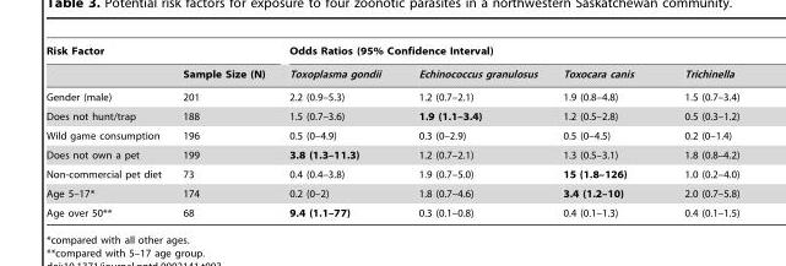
<table><thead><tr><td colspan="2">Risk Factor</td><td colspan="4">Odds Ratios (95% Confidence Interval)</td></tr><tr><td></td><td>Sample Size (N)</td><td>Toxoplasma gondii</td><td>Echinococcus granulosus</td><td>Toxocara canis</td><td>Trichinella</td></tr></thead><tbody><tr><td>Gender (male)</td><td>201</td><td>2.2 (0.9–5.3)</td><td>1.2 (0.7–2.1)</td><td>1.9 (0.8–4.8)</td><td>1.5 (0.7–3.4)</td></tr><tr><td>Does not hunt/trap</td><td>188</td><td>1.5 (0.7–3.6)</td><td>1.9 (1.1–3.4)</td><td>1.2 (0.5–2.8)</td><td>0.5 (0.3–1.2)</td></tr><tr><td>Wild game consumption</td><td>196</td><td>0.5 (0–4.9)</td><td>0.3 (0–2.9)</td><td>0.5 (0–4.5)</td><td>0.2 (0–1.4)</td></tr><tr><td>Does not own a pet</td><td>199</td><td>3.8 (1.3–11.3)</td><td>1.2 (0.7–2.1)</td><td>1.3 (0.5–3.1)</td><td>1.8 (0.8–4.2)</td></tr><tr><td>Non-commercial pet diet</td><td>73</td><td>0.4 (0.4–3.8)</td><td>1.9 (0.7–5.0)</td><td>15 (1.8–126)</td><td>1.0 (0.2–4.0)</td></tr><tr><td>Age 5–17*</td><td>174</td><td>0.2 (0–2)</td><td>1.8 (0.7–4.6)</td><td>3.4 (1.2–10)</td><td>2.0 (0.7–5.8)</td></tr><tr><td>Age over 50**</td><td>68</td><td>9.4 (1.1–77)</td><td>0.3 (0.1–0.8)</td><td>0.4 (0.1–1.3)</td><td>0.4 (0.1–1.5)</td></tr></tbody></table>